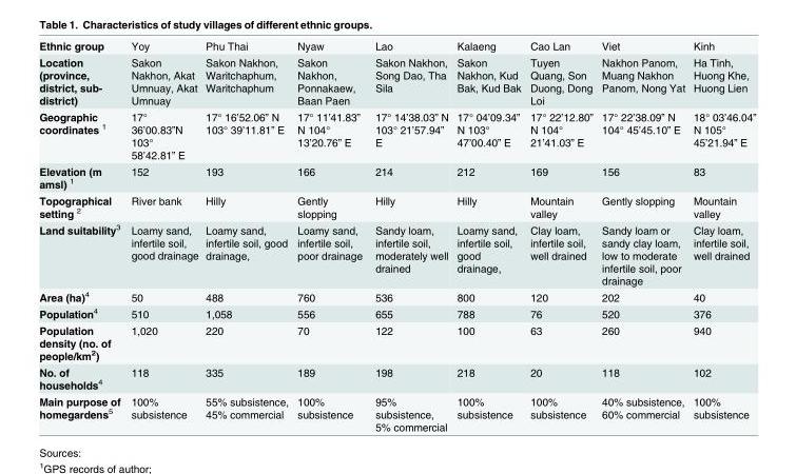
<table><tbody><tr><td>Ethnic group</td><td>Yoy</td><td>Phu Thai</td><td>Nyaw</td><td>Lao</td><td>Kalaeng</td><td>Cao Lan</td><td>Viet</td><td>Kinh</td></tr><tr><td>Location (province, district, sub- district)</td><td>Sakon Nakhon, Akat Umnuay, Akat Umnuay</td><td>Sakon Nakhon, Waritchaphum, Waritchaphum</td><td>Sakon Nakhon, Ponnakaew, Baan Paen</td><td>Sakon Nakhon, Song Dao, Tha Sila</td><td>Sakon Nakhon, Kud Bak, Kud Bak</td><td>Tuyen Quang, Son Duong, Dong Loi</td><td>Nakhon Panom, Muang Nakhon Panom, Nong Yat</td><td>Ha Tinh, Huong Khe, Huong Lien</td></tr><tr><td>Geographic coordinates <sup>1</sup></td><td>17° 36’00.83”N 103° 58’42.81” E</td><td>17° 16’52.06” N 103° 39’11.81” E</td><td>17° 11’41.83” N 104° 13’20.76” E</td><td>17° 14’38.03” N 103° 21’57.94” E</td><td>17° 04’09.34” N 103° 47’00.40” E</td><td>17° 22’12.80” N 104° 21’41.03” E</td><td>17° 22’38.09” N 104° 45’45.10” E</td><td>18° 03’46.04” N 105° 45’21.94” E</td></tr><tr><td>Elevation (m amsl) <sup>1</sup></td><td>152</td><td>193</td><td>166</td><td>214</td><td>212</td><td>169</td><td>156</td><td>83</td></tr><tr><td>Topographical setting <sup>2</sup></td><td>River bank</td><td>Hilly</td><td>Gently slopping</td><td>Hilly</td><td>Hilly</td><td>Mountain valley</td><td>Gently slopping</td><td>Mountain valley</td></tr><tr><td>Land suitability<sup>3</sup></td><td>Loamy sand, infertile soil, good drainage</td><td>Loamy sand, infertile soil, good drainage,</td><td>Loamy sand, infertile soil, poor drainage</td><td>Sandy loam, infertile soil, moderately well drained</td><td>Loamy sand, infertile soil, good drainage,</td><td>Clay loam, infertile soil, well drained</td><td>Sandy loam or sandy clay loam, low to moderate infertile soil, poor drainage</td><td>Clay loam, infertile soil, well drained</td></tr><tr><td>Area (ha)<sup>4</sup></td><td>50</td><td>488</td><td>760</td><td>536</td><td>800</td><td>120</td><td>202</td><td>40</td></tr><tr><td>Population<sup>4</sup></td><td>510</td><td>1,058</td><td>556</td><td>655</td><td>788</td><td>76</td><td>520</td><td>376</td></tr><tr><td>Population density (no. of people/km<sup>2</sup>)</td><td>1,020</td><td>220</td><td>70</td><td>122</td><td>100</td><td>63</td><td>260</td><td>940</td></tr><tr><td>No. of households<sup>4</sup></td><td>118</td><td>335</td><td>189</td><td>198</td><td>218</td><td>20</td><td>118</td><td>102</td></tr><tr><td>Main purpose of homegardens<sup>5</sup></td><td>100% subsistence</td><td>55% subsistence, 45% commercial</td><td>100% subsistence</td><td>95% subsistence, 5% commercial</td><td>100% subsistence</td><td>100% subsistence</td><td>40% subsistence, 60% commercial</td><td>100% subsistence</td></tr></tbody></table>